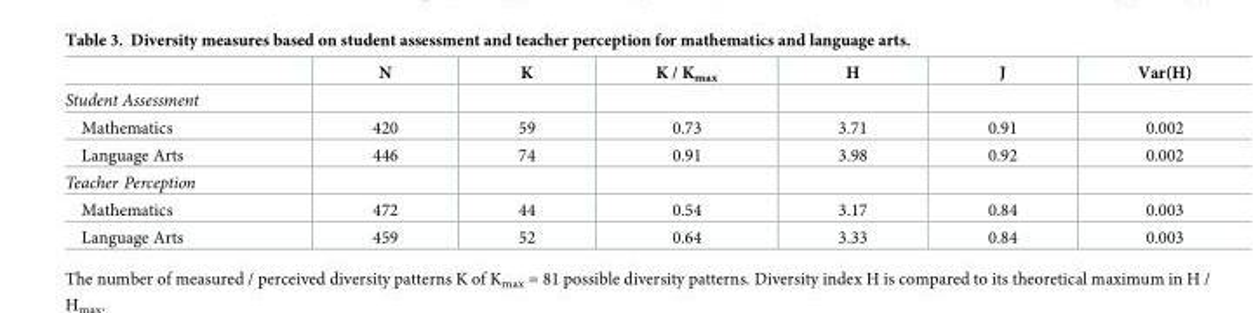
<table><thead><tr><td></td><td>N</td><td>K</td><td>K / K<sub>max</sub></td><td>H</td><td>J</td><td>Var(H)</td></tr></thead><tbody><tr><td colspan="7">Student Assessment</td></tr><tr><td>Mathematics</td><td>420</td><td>59</td><td>0.73</td><td>3.71</td><td>0.91</td><td>0.002</td></tr><tr><td>Language Arts</td><td>446</td><td>74</td><td>0.91</td><td>3.98</td><td>0.92</td><td>0.002</td></tr><tr><td colspan="7">Teacher Perception</td></tr><tr><td>Mathematics</td><td>472</td><td>44</td><td>0.54</td><td>3.17</td><td>0.84</td><td>0.003</td></tr><tr><td>Language Arts</td><td>459</td><td>52</td><td>0.64</td><td>3.33</td><td>0.84</td><td>0.003</td></tr></tbody></table>